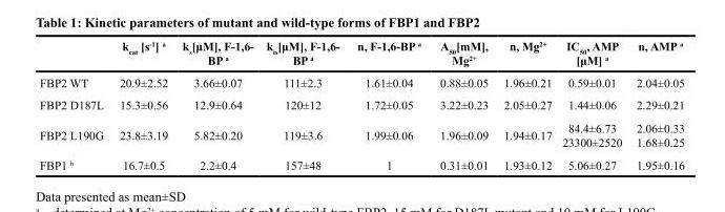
<table><thead><tr><td></td><td>k<sub>cat</sub> [s<sup>-1</sup>] <sup>a</sup></td><td>k<sub>s</sub>[μM], F-1,6- BP <sup>a</sup></td><td>k<sub>is</sub>[μM], F-1,6- BP <sup>a</sup></td><td>n, F-1,6-BP <sup>a</sup></td><td>A<sub>50</sub>[mM], Mg<sup>2+</sup></td><td>n, Mg<sup>2+</sup></td><td>IC<sub>50</sub>, AMP [μM] <sup>a</sup></td><td>n, AMP <sup>a</sup></td></tr></thead><tbody><tr><td>FBP2 WT</td><td>20.9±2.52</td><td>3.66±0.07</td><td>111±2.3</td><td>1.61±0.04</td><td>0.88±0.05</td><td>1.96±0.21</td><td>0.59±0.01</td><td>2.04±0.05</td></tr><tr><td>FBP2 D187L</td><td>15.3±0.56</td><td>12.9±0.64</td><td>120±12</td><td>1.72±0.05</td><td>3.22±0.23</td><td>2.05±0.27</td><td>1.44±0.06</td><td>2.29±0.21</td></tr><tr><td>FBP2 L190G</td><td>23.8±3.19</td><td>5.82±0.20</td><td>119±3.6</td><td>1.99±0.06</td><td>1.96±0.09</td><td>1.94±0.17</td><td>84.4±6.73 23300±2520</td><td>2.06±0.33 1.68±0.25</td></tr><tr><td>FBP1 <sup>b</sup></td><td>16.7±0.5</td><td>2.2±0.4</td><td>157±48</td><td>1</td><td>0.31±0.01</td><td>1.93±0.12</td><td>5.06±0.27</td><td>1.95±0.16</td></tr></tbody></table>